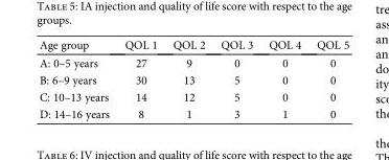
<table><thead><tr><td>Age group</td><td>QOL 1</td><td>QOL 2</td><td>QOL 3</td><td>QOL 4</td><td>QOL 5</td></tr></thead><tbody><tr><td>A: 0–5 years</td><td>27</td><td>9</td><td>0</td><td>0</td><td>0</td></tr><tr><td>B: 6–9 years</td><td>30</td><td>13</td><td>5</td><td>0</td><td>0</td></tr><tr><td>C: 10–13 years</td><td>14</td><td>12</td><td>5</td><td>0</td><td>0</td></tr><tr><td>D: 14–16 years</td><td>8</td><td>1</td><td>3</td><td>1</td><td>0</td></tr></tbody></table>